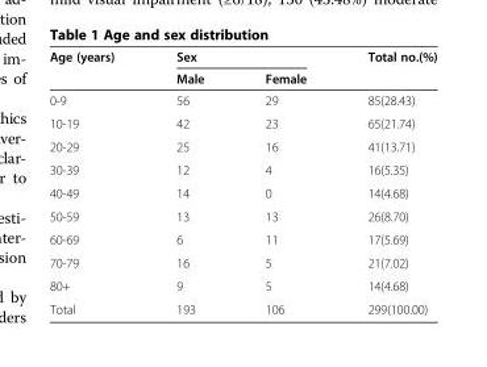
<table><thead><tr><td rowspan="2">Age (years)</td><td colspan="2">Sex</td><td rowspan="2">Total no.(%)</td></tr><tr><td>Male</td><td>Female</td></tr></thead><tbody><tr><td>0-9</td><td>56</td><td>29</td><td>85(28.43)</td></tr><tr><td>10-19</td><td>42</td><td>23</td><td>65(21.74)</td></tr><tr><td>20-29</td><td>25</td><td>16</td><td>41(13.71)</td></tr><tr><td>30-39</td><td>12</td><td>4</td><td>16(5.35)</td></tr><tr><td>40-49</td><td>14</td><td>0</td><td>14(4.68)</td></tr><tr><td>50-59</td><td>13</td><td>13</td><td>26(8.70)</td></tr><tr><td>60-69</td><td>6</td><td>11</td><td>17(5.69)</td></tr><tr><td>70-79</td><td>16</td><td>5</td><td>21(7.02)</td></tr><tr><td>80+</td><td>9</td><td>5</td><td>14(4.68)</td></tr><tr><td>Total</td><td>193</td><td>106</td><td>299(100.00)</td></tr></tbody></table>